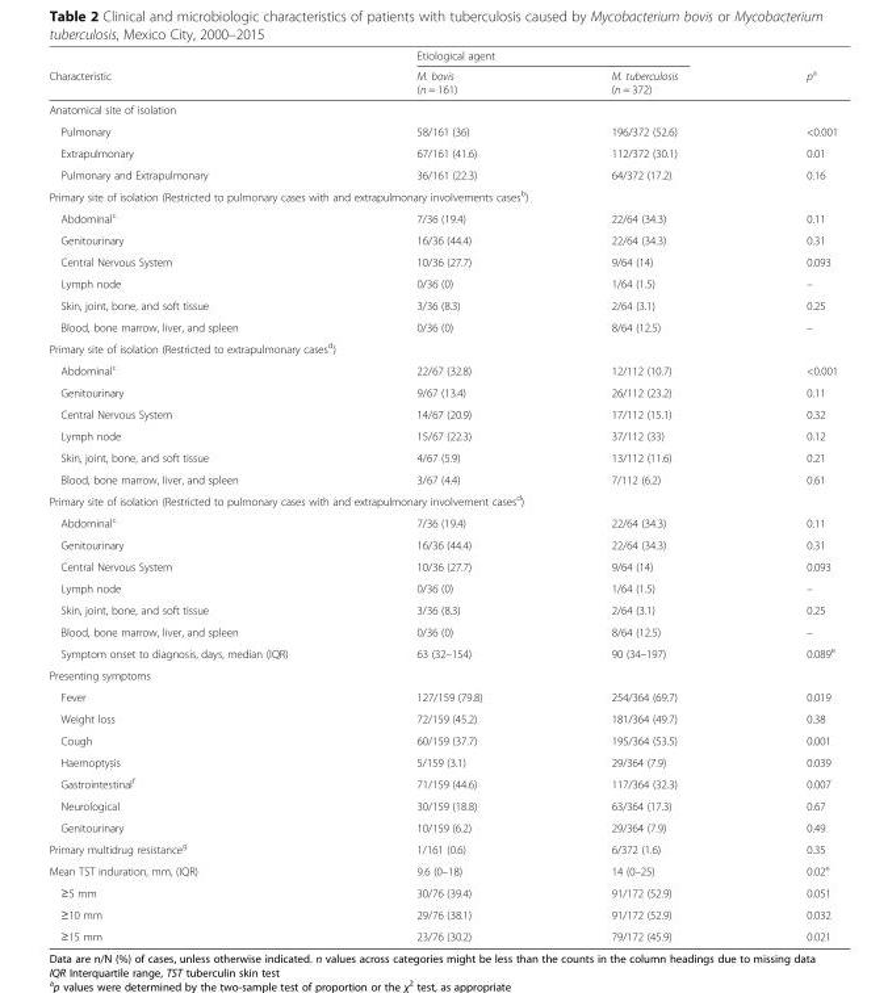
<table><thead><tr><td rowspan="2">Characteristic</td><td colspan="2">Etiological agent</td><td rowspan="2">p<sup>a</sup></td></tr><tr><td>M. bovis (n = 161)</td><td>M. tuberculosis (n = 372)</td></tr></thead><tbody><tr><td colspan="4">Anatomical site of isolation</td></tr><tr><td>Pulmonary</td><td>58/161 (36)</td><td>196/372 (52.6)</td><td>&lt;0.001</td></tr><tr><td>Extrapulmonary</td><td>67/161 (41.6)</td><td>112/372 (30.1)</td><td>0.01</td></tr><tr><td>Pulmonary and Extrapulmonary</td><td>36/161 (22.3)</td><td>64/372 (17.2)</td><td>0.16</td></tr><tr><td colspan="4">Primary site of isolation (Restricted to pulmonary cases with and extrapulmonary involvements cases<sup>b</sup>)</td></tr><tr><td>Abdominal<sup>c</sup></td><td>7/36 (19.4)</td><td>22/64 (34.3)</td><td>0.11</td></tr><tr><td>Genitourinary</td><td>16/36 (44.4)</td><td>22/64 (34.3)</td><td>0.31</td></tr><tr><td>Central Nervous System</td><td>10/36 (27.7)</td><td>9/64 (14)</td><td>0.093</td></tr><tr><td>Lymph node</td><td>0/36 (0)</td><td>1/64 (1.5)</td><td>–</td></tr><tr><td>Skin, joint, bone, and soft tissue</td><td>3/36 (8.3)</td><td>2/64 (3.1)</td><td>0.25</td></tr><tr><td>Blood, bone marrow, liver, and spleen</td><td>0/36 (0)</td><td>8/64 (12.5)</td><td>–</td></tr><tr><td colspan="4">Primary site of isolation (Restricted to extrapulmonary cases<sup>d</sup>)</td></tr><tr><td>Abdominal<sup>c</sup></td><td>22/67 (32.8)</td><td>12/112 (10.7)</td><td>&lt;0.001</td></tr><tr><td>Genitourinary</td><td>9/67 (13.4)</td><td>26/112 (23.2)</td><td>0.11</td></tr><tr><td>Central Nervous System</td><td>14/67 (20.9)</td><td>17/112 (15.1)</td><td>0.32</td></tr><tr><td>Lymph node</td><td>15/67 (22.3)</td><td>37/112 (33)</td><td>0.12</td></tr><tr><td>Skin, joint, bone, and soft tissue</td><td>4/67 (5.9)</td><td>13/112 (11.6)</td><td>0.21</td></tr><tr><td>Blood, bone marrow, liver, and spleen</td><td>3/67 (4.4)</td><td>7/112 (6.2)</td><td>0.61</td></tr><tr><td colspan="4">Primary site of isolation (Restricted to pulmonary cases with and extrapulmonary involvement cases<sup>d</sup>)</td></tr><tr><td>Abdominal<sup>c</sup></td><td>7/36 (19.4)</td><td>22/64 (34.3)</td><td>0.11</td></tr><tr><td>Genitourinary</td><td>16/36 (44.4)</td><td>22/64 (34.3)</td><td>0.31</td></tr><tr><td>Central Nervous System</td><td>10/36 (27.7)</td><td>9/64 (14)</td><td>0.093</td></tr><tr><td>Lymph node</td><td>0/36 (0)</td><td>1/64 (1.5)</td><td>–</td></tr><tr><td>Skin, joint, bone, and soft tissue</td><td>3/36 (8.3)</td><td>2/64 (3.1)</td><td>0.25</td></tr><tr><td>Blood, bone marrow, liver, and spleen</td><td>0/36 (0)</td><td>8/64 (12.5)</td><td>–</td></tr><tr><td>Symptom onset to diagnosis, days, median (IQR)</td><td>63 (32–154)</td><td>90 (34–197)</td><td>0.089<sup>e</sup></td></tr><tr><td colspan="4">Presenting symptoms</td></tr><tr><td>Fever</td><td>127/159 (79.8)</td><td>254/364 (69.7)</td><td>0.019</td></tr><tr><td>Weight loss</td><td>72/159 (45.2)</td><td>181/364 (49.7)</td><td>0.38</td></tr><tr><td>Cough</td><td>60/159 (37.7)</td><td>195/364 (53.5)</td><td>0.001</td></tr><tr><td>Haemoptysis</td><td>5/159 (3.1)</td><td>29/364 (7.9)</td><td>0.039</td></tr><tr><td>Gastrointestinal<sup>f</sup></td><td>71/159 (44.6)</td><td>117/364 (32.3)</td><td>0.007</td></tr><tr><td>Neurological</td><td>30/159 (18.8)</td><td>63/364 (17.3)</td><td>0.67</td></tr><tr><td>Genitourinary</td><td>10/159 (6.2)</td><td>29/364 (7.9)</td><td>0.49</td></tr><tr><td>Primary multidrug resistance<sup>g</sup></td><td>1/161 (0.6)</td><td>6/372 (1.6)</td><td>0.35</td></tr><tr><td>Mean TST induration, mm, (IQR)</td><td>9.6 (0–18)</td><td>14 (0–25)</td><td>0.02<sup>e</sup></td></tr><tr><td>≥5 mm</td><td>30/76 (39.4)</td><td>91/172 (52.9)</td><td>0.051</td></tr><tr><td>≥10 mm</td><td>29/76 (38.1)</td><td>91/172 (52.9)</td><td>0.032</td></tr><tr><td>≥15 mm</td><td>23/76 (30.2)</td><td>79/172 (45.9)</td><td>0.021</td></tr></tbody></table>